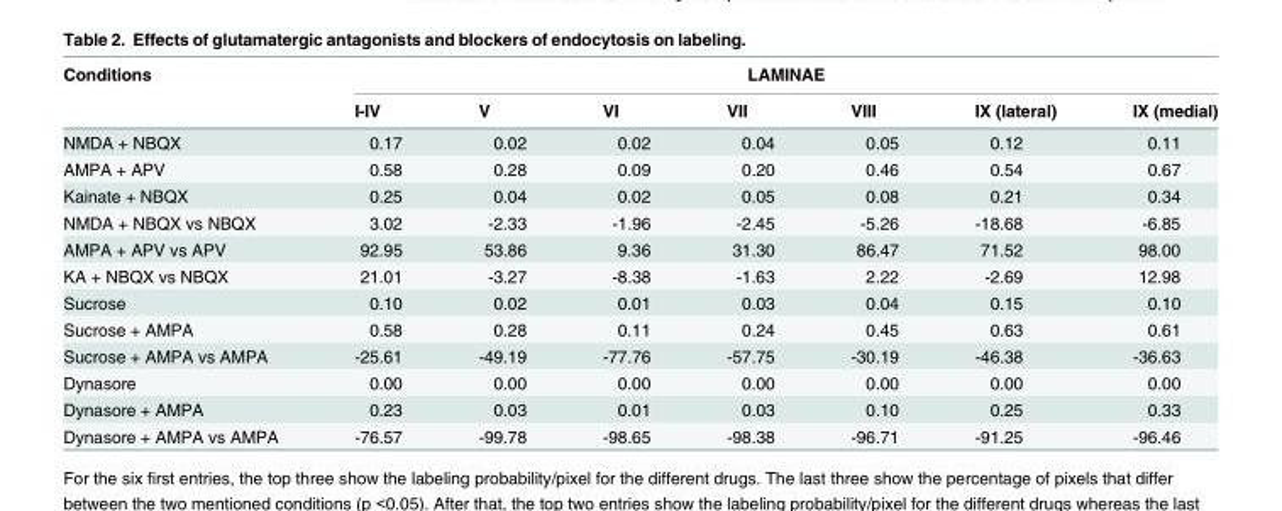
<table><thead><tr><td rowspan="2">Conditions</td><td colspan="7">LAMINAE</td></tr><tr><td>I-IV</td><td>V</td><td>VI</td><td>VII</td><td>VIII</td><td>IX (lateral)</td><td>IX (medial)</td></tr></thead><tbody><tr><td>NMDA + NBQX</td><td>0.17</td><td>0.02</td><td>0.02</td><td>0.04</td><td>0.05</td><td>0.12</td><td>0.11</td></tr><tr><td>AMPA + APV</td><td>0.58</td><td>0.28</td><td>0.09</td><td>0.20</td><td>0.46</td><td>0.54</td><td>0.67</td></tr><tr><td>Kainate + NBQX</td><td>0.25</td><td>0.04</td><td>0.02</td><td>0.05</td><td>0.08</td><td>0.21</td><td>0.34</td></tr><tr><td>NMDA + NBQX vs NBQX</td><td>3.02</td><td>-2.33</td><td>-1.96</td><td>-2.45</td><td>-5.26</td><td>-18.68</td><td>-6.85</td></tr><tr><td>AMPA + APV vs APV</td><td>92.95</td><td>53.86</td><td>9.36</td><td>31.30</td><td>86.47</td><td>71.52</td><td>98.00</td></tr><tr><td>KA + NBQX vs NBQX</td><td>21.01</td><td>-3.27</td><td>-8.38</td><td>-1.63</td><td>2.22</td><td>-2.69</td><td>12.98</td></tr><tr><td>Sucrose</td><td>0.10</td><td>0.02</td><td>0.01</td><td>0.03</td><td>0.04</td><td>0.15</td><td>0.10</td></tr><tr><td>Sucrose + AMPA</td><td>0.58</td><td>0.28</td><td>0.11</td><td>0.24</td><td>0.45</td><td>0.63</td><td>0.61</td></tr><tr><td>Sucrose + AMPA vs AMPA</td><td>-25.61</td><td>-49.19</td><td>-77.76</td><td>-57.75</td><td>-30.19</td><td>-46.38</td><td>-36.63</td></tr><tr><td>Dynasore</td><td>0.00</td><td>0.00</td><td>0.00</td><td>0.00</td><td>0.00</td><td>0.00</td><td>0.00</td></tr><tr><td>Dynasore + AMPA</td><td>0.23</td><td>0.03</td><td>0.01</td><td>0.03</td><td>0.10</td><td>0.25</td><td>0.33</td></tr><tr><td>Dynasore + AMPA vs AMPA</td><td>-76.57</td><td>-99.78</td><td>-98.65</td><td>-98.38</td><td>-96.71</td><td>-91.25</td><td>-96.46</td></tr></tbody></table>